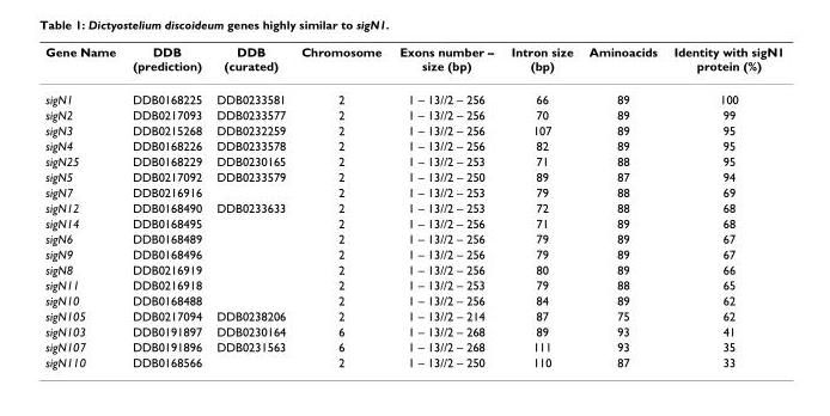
<table><thead><tr><td>Gene Name</td><td>DDB (prediction)</td><td>DDB (curated)</td><td>Chromosome</td><td>Exons number – size (bp)</td><td>Intron size (bp)</td><td>Aminoacids</td><td>Identity with sigN1 protein (%)</td></tr></thead><tbody><tr><td>sigN1</td><td>DDB0168225</td><td>DDB0233581</td><td>2</td><td>1 – 13//2 – 256</td><td>66</td><td>89</td><td>100</td></tr><tr><td>sigN2</td><td>DDB0217093</td><td>DDB0233577</td><td>2</td><td>1 – 13//2 – 256</td><td>70</td><td>89</td><td>99</td></tr><tr><td>sigN3</td><td>DDB0215268</td><td>DDB0232259</td><td>2</td><td>1 – 13//2 – 256</td><td>107</td><td>89</td><td>95</td></tr><tr><td>sigN4</td><td>DDB0168226</td><td>DDB0233578</td><td>2</td><td>1 – 13//2 – 256</td><td>82</td><td>89</td><td>95</td></tr><tr><td>sigN25</td><td>DDB0168229</td><td>DDB0230165</td><td>2</td><td>1 – 13//2 – 253</td><td>71</td><td>88</td><td>95</td></tr><tr><td>sigN5</td><td>DDB0217092</td><td>DDB0233579</td><td>2</td><td>1 – 13//2 – 250</td><td>89</td><td>87</td><td>94</td></tr><tr><td>sigN7</td><td>DDB0216916</td><td></td><td>2</td><td>1 – 13//2 – 253</td><td>79</td><td>88</td><td>69</td></tr><tr><td>sigN12</td><td>DDB0168490</td><td>DDB0233633</td><td>2</td><td>1 – 13//2 – 253</td><td>72</td><td>88</td><td>68</td></tr><tr><td>sigN14</td><td>DDB0168495</td><td></td><td>2</td><td>1 – 13//2 – 256</td><td>71</td><td>89</td><td>68</td></tr><tr><td>sigN6</td><td>DDB0168489</td><td></td><td>2</td><td>1 – 13//2 – 256</td><td>79</td><td>89</td><td>67</td></tr><tr><td>sigN9</td><td>DDB0168496</td><td></td><td>2</td><td>1 – 13//2 – 256</td><td>79</td><td>89</td><td>67</td></tr><tr><td>sigN8</td><td>DDB0216919</td><td></td><td>2</td><td>1 – 13//2 – 256</td><td>80</td><td>89</td><td>66</td></tr><tr><td>sigN11</td><td>DDB0216918</td><td></td><td>2</td><td>1 – 13//2 – 253</td><td>79</td><td>88</td><td>65</td></tr><tr><td>sigN10</td><td>DDB0168488</td><td></td><td>2</td><td>1 – 13//2 – 256</td><td>84</td><td>89</td><td>62</td></tr><tr><td>sigN105</td><td>DDB0217094</td><td>DDB0238206</td><td>2</td><td>1 – 13//2 – 214</td><td>87</td><td>75</td><td>62</td></tr><tr><td>sigN103</td><td>DDB0191897</td><td>DDB0230164</td><td>6</td><td>1 – 13//2 – 268</td><td>89</td><td>93</td><td>41</td></tr><tr><td>sigN107</td><td>DDB0191896</td><td>DDB0231563</td><td>6</td><td>1 – 13//2 – 268</td><td>111</td><td>93</td><td>35</td></tr><tr><td>sigN110</td><td>DDB0168566</td><td></td><td>2</td><td>1 – 13//2 – 250</td><td>110</td><td>87</td><td>33</td></tr></tbody></table>